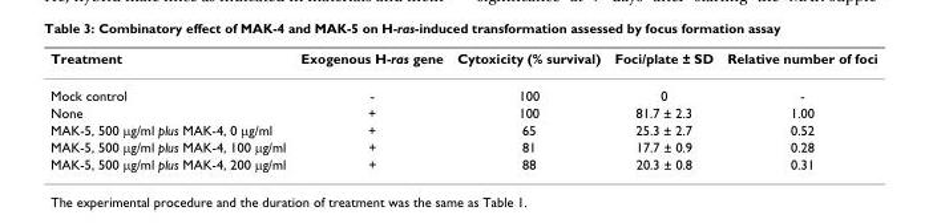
<table><thead><tr><td>Treatment</td><td>Exogenous H-ras gene</td><td>Cytoxicity (% survival)</td><td>Foci/plate ± SD</td><td>Relative number of foci</td></tr></thead><tbody><tr><td>Mock control</td><td>-</td><td>100</td><td>0</td><td>-</td></tr><tr><td>None</td><td>+</td><td>100</td><td>81.7 ± 2.3</td><td>1.00</td></tr><tr><td>MAK-5, 500 µg/ml plus MAK-4, 0 µg/ml</td><td>+</td><td>65</td><td>25.3 ± 2.7</td><td>0.52</td></tr><tr><td>MAK-5, 500 µg/ml plus MAK-4, 100 µg/ml</td><td>+</td><td>81</td><td>17.7 ± 0.9</td><td>0.28</td></tr><tr><td>MAK-5, 500 µg/ml plus MAK-4, 200 µg/ml</td><td>+</td><td>88</td><td>20.3 ± 0.8</td><td>0.31</td></tr></tbody></table>